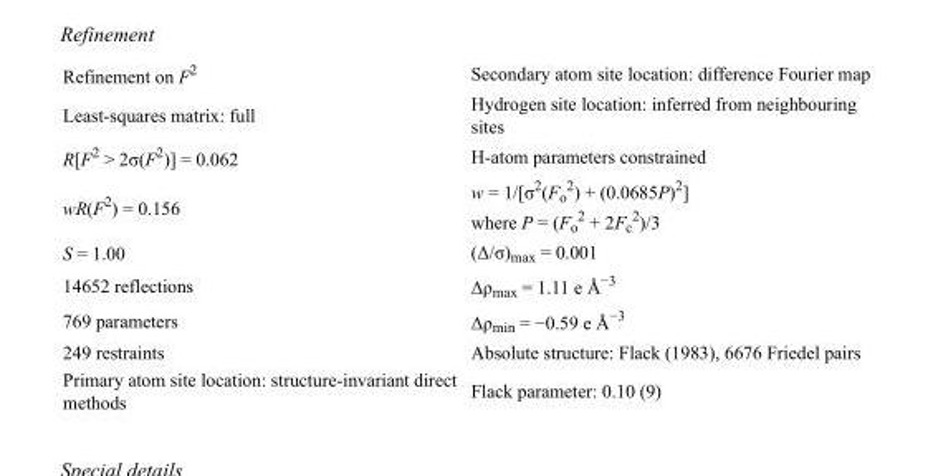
<table><tbody><tr><td>Refinement on F<sup>2</sup></td><td>Secondary atom site location: difference Fourier map</td></tr><tr><td>Least-squares matrix: full</td><td>Hydrogen site location: inferred from neighbouring sites</td></tr><tr><td>R[F<sup>2</sup> &gt; 2σ(F<sup>2</sup>)] = 0.062</td><td>H-atom parameters constrained</td></tr><tr><td>wR(F<sup>2</sup>) = 0.156</td><td>w = 1/[σ<sup>2</sup>(F<sub>o</sub> <sup>2</sup>) + (0.0685P)<sup>2</sup>] where P = (F<sub>o</sub> <sup>2</sup> + 2F<sub>c</sub> <sup>2</sup>)/3</td></tr><tr><td>S = 1.00</td><td>(Δ/σ)<sub>max</sub> = 0.001</td></tr><tr><td>14652 reflections</td><td>Δρ<sub>max</sub> = 1.11 e Å<sup>−3</sup></td></tr><tr><td>769 parameters</td><td>Δρ<sub>min</sub> = −0.59 e Å<sup>−3</sup></td></tr><tr><td>249 restraints</td><td>Absolute structure: Flack (1983), 6676 Friedel pairs</td></tr><tr><td>Primary atom site location: structure-invariant direct methods</td><td>Flack parameter: 0.10 (9)</td></tr></tbody></table>